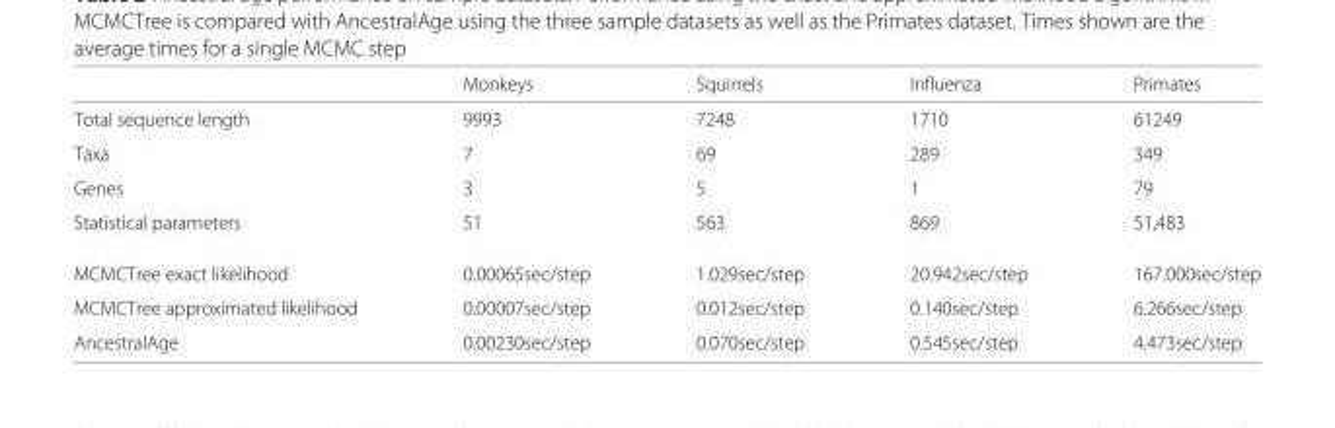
<table><thead><tr><td></td><td>Monkeys</td><td>Squirrels</td><td>Influenza</td><td>Primates</td></tr></thead><tbody><tr><td>Total sequence length</td><td>9993</td><td>7248</td><td>1710</td><td>61249</td></tr><tr><td>Taxa</td><td>7</td><td>69</td><td>289</td><td>349</td></tr><tr><td>Genes</td><td>3</td><td>5</td><td>1</td><td>79</td></tr><tr><td>Statistical parameters</td><td>51</td><td>563</td><td>869</td><td>51,483</td></tr><tr><td>MCMCTree exact likelihood</td><td>0.00065sec/step</td><td>1.029sec/step</td><td>20.942sec/step</td><td>167.000sec/step</td></tr><tr><td>MCMCTree approximated likelihood</td><td>0.00007sec/step</td><td>0.012sec/step</td><td>0.140sec/step</td><td>6.266sec/step</td></tr><tr><td>AncestralAge</td><td>0.00230sec/step</td><td>0.070sec/step</td><td>0.545sec/step</td><td>4.473sec/step</td></tr></tbody></table>